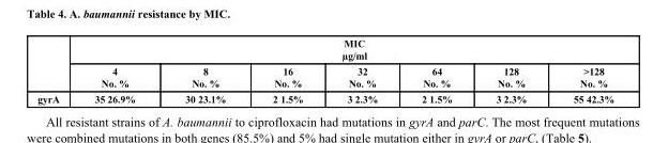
<table><thead><tr><td rowspan="2"></td><td colspan="7">MIC µg/ml</td></tr><tr><td>4 No. %</td><td>8 No. %</td><td>16 No. %</td><td>32 No. %</td><td>64 No. %</td><td>128 No. %</td><td>&gt;128 No. %</td></tr></thead><tbody><tr><td>gyrA</td><td>35 26.9%</td><td>30 23.1%</td><td>2 1.5%</td><td>3 2.3%</td><td>2 1.5%</td><td>3 2.3%</td><td>55 42.3%</td></tr></tbody></table>